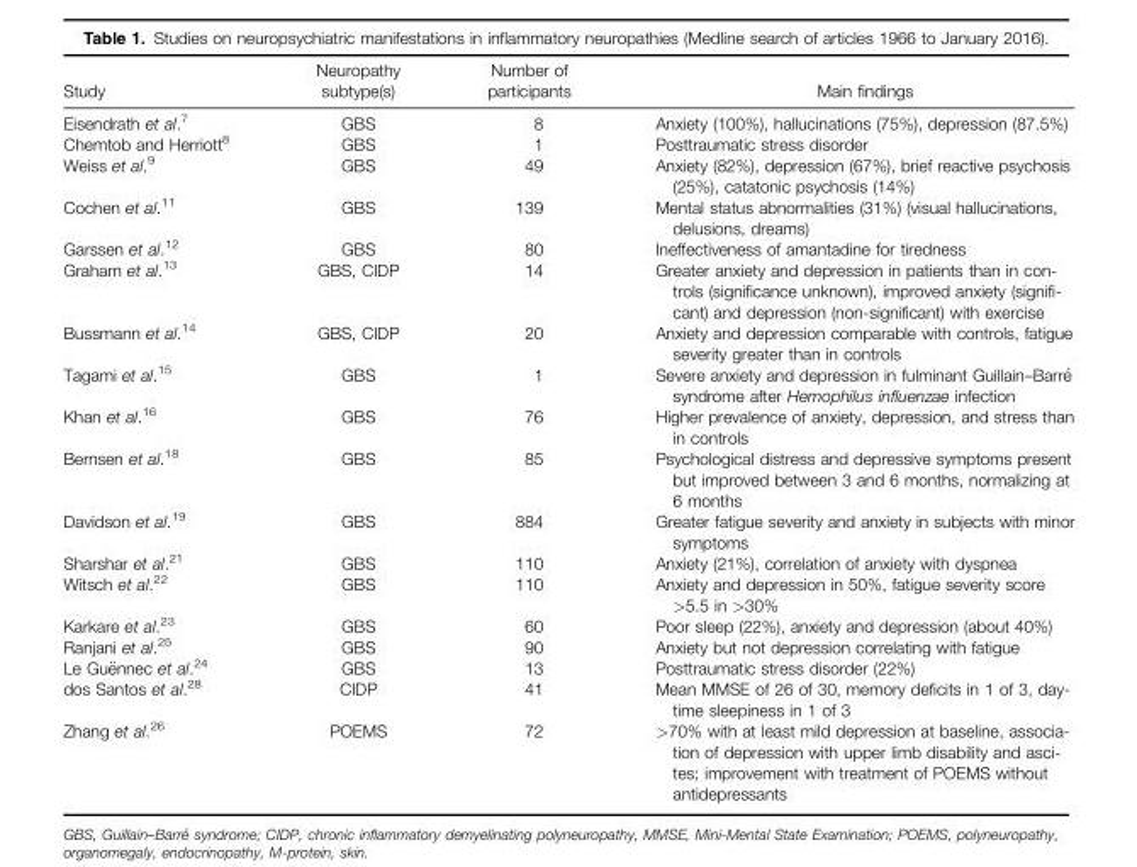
<table><thead><tr><td>Study</td><td>Neuropathy subtype(s)</td><td>Number of participants</td><td>Main findings</td></tr></thead><tbody><tr><td>Eisendrath et al.<sup>7</sup></td><td>GBS</td><td>8</td><td>Anxiety (100%), hallucinations (75%), depression (87.5%)</td></tr><tr><td>Chemtob and Herriott<sup>8</sup></td><td>GBS</td><td>1</td><td>Posttraumatic stress disorder</td></tr><tr><td>Weiss et al.<sup>9</sup></td><td>GBS</td><td>49</td><td>Anxiety (82%), depression (67%), brief reactive psychosis (25%), catatonic psychosis (14%)</td></tr><tr><td>Cochen et al.<sup>11</sup></td><td>GBS</td><td>139</td><td>Mental status abnormalities (31%) (visual hallucinations, delusions, dreams)</td></tr><tr><td>Garssen et al.<sup>12</sup></td><td>GBS</td><td>80</td><td>Ineffectiveness of amantadine for tiredness</td></tr><tr><td>Graham et al.<sup>13</sup></td><td>GBS, CIDP</td><td>14</td><td>Greater anxiety and depression in patients than in con- trols (significance unknown), improved anxiety (signifi- cant) and depression (non-significant) with exercise</td></tr><tr><td>Bussmann et al.<sup>14</sup></td><td>GBS, CIDP</td><td>20</td><td>Anxiety and depression comparable with controls, fatigue severity greater than in controls</td></tr><tr><td>Tagami et al.<sup>15</sup></td><td>GBS</td><td>1</td><td>Severe anxiety and depression in fulminant Guillain–Barr�e syndrome after Hemophilus influenzae infection</td></tr><tr><td>Khan et al.<sup>16</sup></td><td>GBS</td><td>76</td><td>Higher prevalence of anxiety, depression, and stress than in controls</td></tr><tr><td>Bernsen et al.<sup>18</sup></td><td>GBS</td><td>85</td><td>Psychological distress and depressive symptoms present but improved between 3 and 6 months, normalizing at 6 months</td></tr><tr><td>Davidson et al.<sup>19</sup></td><td>GBS</td><td>884</td><td>Greater fatigue severity and anxiety in subjects with minor symptoms</td></tr><tr><td>Sharshar et al.<sup>21</sup></td><td>GBS</td><td>110</td><td>Anxiety (21%), correlation of anxiety with dyspnea</td></tr><tr><td>Witsch et al.<sup>22</sup></td><td>GBS</td><td>110</td><td>Anxiety and depression in 50%, fatigue severity score &gt;5.5 in &gt;30%</td></tr><tr><td>Karkare et al.<sup>23</sup></td><td>GBS</td><td>60</td><td>Poor sleep (22%), anxiety and depression (about 40%)</td></tr><tr><td>Ranjani et al.<sup>25</sup></td><td>GBS</td><td>90</td><td>Anxiety but not depression correlating with fatigue</td></tr><tr><td>Le Gu€ennec et al.24</td><td>GBS</td><td>13</td><td>Posttraumatic stress disorder (22%)</td></tr><tr><td>dos Santos et al.<sup>28</sup></td><td>CIDP</td><td>41</td><td>Mean MMSE of 26 of 30, memory deficits in 1 of 3, day- time sleepiness in 1 of 3</td></tr><tr><td>Zhang et al.<sup>26</sup></td><td>POEMS</td><td>72</td><td>&gt;70% with at least mild depression at baseline, associa- tion of depression with upper limb disability and asci- tes; improvement with treatment of POEMS without antidepressants</td></tr></tbody></table>